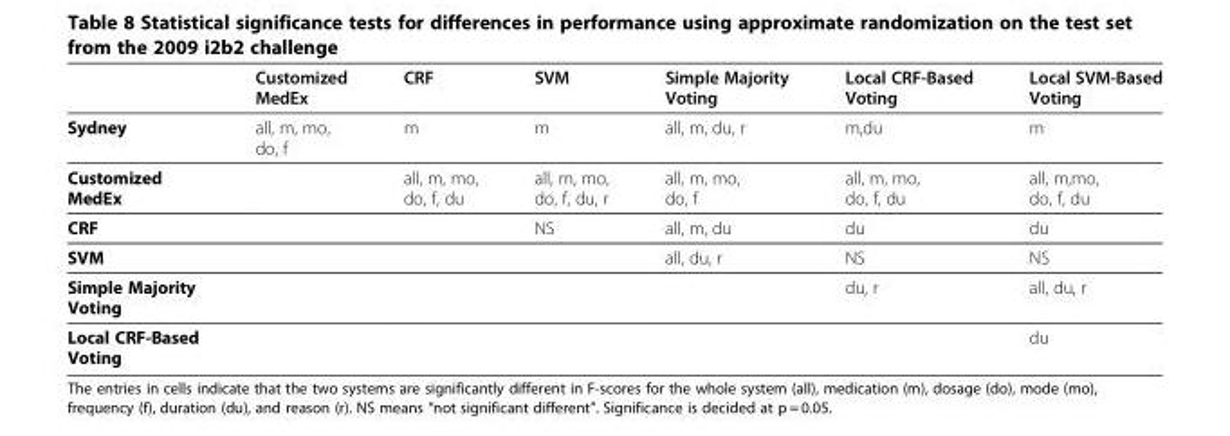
<table><thead><tr><td></td><td>Customized MedEx</td><td>CRF</td><td>SVM</td><td>Simple Majority Voting</td><td>Local CRF-Based Voting</td><td>Local SVM-Based Voting</td></tr></thead><tbody><tr><td>Sydney</td><td>all, m, mo, do, f</td><td>m</td><td>m</td><td>all, m, du, r</td><td>m,du</td><td>m</td></tr><tr><td>Customized MedEx</td><td></td><td>all, m, mo, do, f, du</td><td>all, m, mo, do, f, du, r</td><td>all, m, mo, do, f</td><td>all, m, mo, do, f, du</td><td>all, m,mo, do, f, du</td></tr><tr><td>CRF</td><td></td><td></td><td>NS</td><td>all, m, du</td><td>du</td><td>du</td></tr><tr><td>SVM</td><td></td><td></td><td></td><td>all, du, r</td><td>NS</td><td>NS</td></tr><tr><td>Simple Majority Voting</td><td></td><td></td><td></td><td></td><td>du, r</td><td>all, du, r</td></tr><tr><td>Local CRF-Based Voting</td><td></td><td></td><td></td><td></td><td></td><td>du</td></tr></tbody></table>